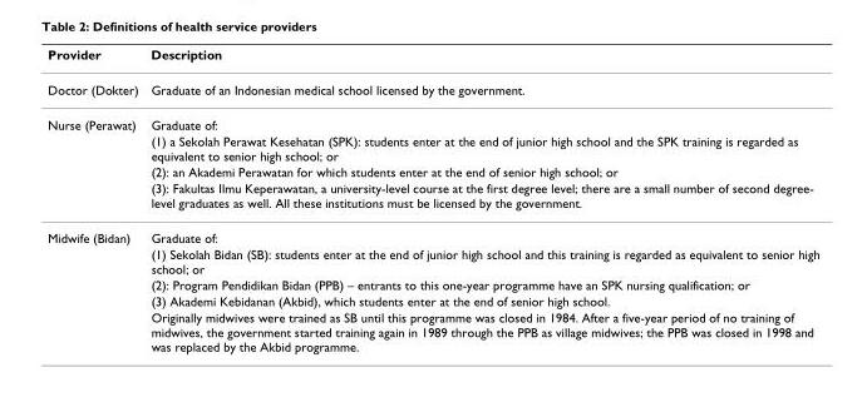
<table><thead><tr><td>Provider</td><td>Description</td></tr></thead><tbody><tr><td>Doctor (Dokter)</td><td>Graduate of an Indonesian medical school licensed by the government.</td></tr><tr><td rowspan="4">Nurse (Perawat)</td><td>Graduate of:</td></tr><tr><td>(1) a Sekolah Perawat Kesehatan (SPK): students enter at the end of junior high school and the SPK training is regarded as equivalent to senior high school; or</td></tr><tr><td>(2): an Akademi Perawatan for which students enter at the end of senior high school; or</td></tr><tr><td>(3): Fakultas Ilmu Keperawatan, a university-level course at the first degree level; there are a small number of second degree- level graduates as well. All these institutions must be licensed by the government.</td></tr><tr><td rowspan="5">Midwife (Bidan)</td><td>Graduate of:</td></tr><tr><td>(1) Sekolah Bidan (SB): students enter at the end of junior high school and this training is regarded as equivalent to senior high school; or</td></tr><tr><td>(2): Program Pendidikan Bidan (PPB) – entrants to this one-year programme have an SPK nursing qualification; or</td></tr><tr><td>(3) Akademi Kebidanan (Akbid), which students enter at the end of senior high school.</td></tr><tr><td>Originally midwives were trained as SB until this programme was closed in 1984. After a five-year period of no training of midwives, the government started training again in 1989 through the PPB as village midwives; the PPB was closed in 1998 and was replaced by the Akbid programme.</td></tr></tbody></table>